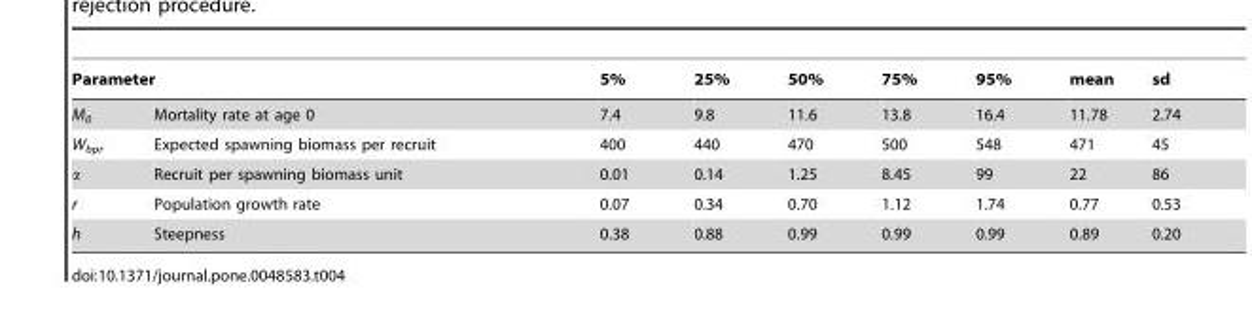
<table><thead><tr><td colspan="2">Parameter</td><td rowspan="2">5% 7.4</td><td rowspan="2">25% 9.8</td><td rowspan="2">50% 11.6</td><td rowspan="2">75% 13.8</td><td rowspan="2">95% 16.4</td><td rowspan="2">mean 11.78</td><td rowspan="2">sd 2.74</td></tr><tr><td>M<sub>0</sub></td><td>Mortality rate at age 0</td></tr></thead><tbody><tr><td>W<sub>bpr</sub></td><td>Expected spawning biomass per recruit</td><td>400</td><td>440</td><td>470</td><td>500</td><td>548</td><td>471</td><td>45</td></tr><tr><td>α</td><td>Recruit per spawning biomass unit</td><td>0.01</td><td>0.14</td><td>1.25</td><td>8.45</td><td>99</td><td>22</td><td>86</td></tr><tr><td>r</td><td>Population growth rate</td><td>0.07</td><td>0.34</td><td>0.70</td><td>1.12</td><td>1.74</td><td>0.77</td><td>0.53</td></tr><tr><td>h</td><td>Steepness</td><td>0.38</td><td>0.88</td><td>0.99</td><td>0.99</td><td>0.99</td><td>0.89</td><td>0.20</td></tr></tbody></table>